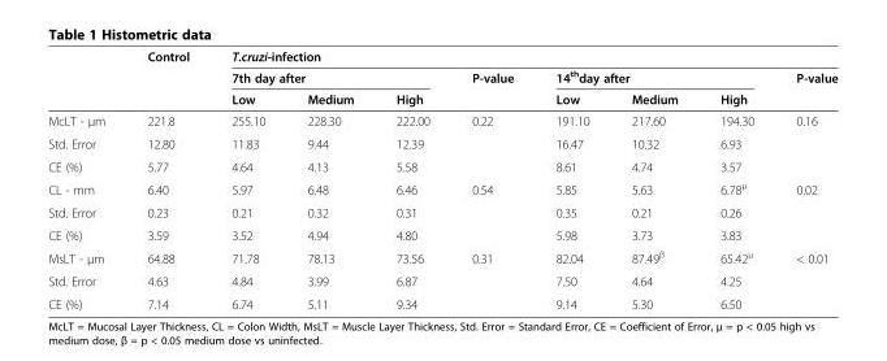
<table><thead><tr><td rowspan="3"></td><td rowspan="3">Control</td><td colspan="8">T.cruzi-infection</td></tr><tr><td colspan="3">7th day after</td><td rowspan="2">P-value</td><td colspan="3">14<sup>th</sup>day after</td><td rowspan="2">P-value</td></tr><tr><td>Low</td><td>Medium</td><td>High</td><td>Low</td><td>Medium</td><td>High</td></tr></thead><tbody><tr><td>McLT - μm</td><td>221.8</td><td>255.10</td><td>228.30</td><td>222.00</td><td>0.22</td><td>191.10</td><td>217.60</td><td>194.30</td><td>0.16</td></tr><tr><td>Std. Error</td><td>12.80</td><td>11.83</td><td>9.44</td><td>12.39</td><td></td><td>16.47</td><td>10.32</td><td>6.93</td><td></td></tr><tr><td>CE (%)</td><td>5.77</td><td>4.64</td><td>4.13</td><td>5.58</td><td></td><td>8.61</td><td>4.74</td><td>3.57</td><td></td></tr><tr><td>CL - mm</td><td>6.40</td><td>5.97</td><td>6.48</td><td>6.46</td><td>0.54</td><td>5.85</td><td>5.63</td><td>6.78<sup>μ</sup></td><td>0.02</td></tr><tr><td>Std. Error</td><td>0.23</td><td>0.21</td><td>0.32</td><td>0.31</td><td></td><td>0.35</td><td>0.21</td><td>0.26</td><td></td></tr><tr><td>CE (%)</td><td>3.59</td><td>3.52</td><td>4.94</td><td>4.80</td><td></td><td>5.98</td><td>3.73</td><td>3.83</td><td></td></tr><tr><td>MsLT - μm</td><td>64.88</td><td>71.78</td><td>78.13</td><td>73.56</td><td>0.31</td><td>82.04</td><td>87.49<sup>β</sup></td><td>65.42<sup>μ</sup></td><td>&lt; 0.01</td></tr><tr><td>Std. Error</td><td>4.63</td><td>4.84</td><td>3.99</td><td>6.87</td><td></td><td>7.50</td><td>4.64</td><td>4.25</td><td></td></tr><tr><td>CE (%)</td><td>7.14</td><td>6.74</td><td>5.11</td><td>9.34</td><td></td><td>9.14</td><td>5.30</td><td>6.50</td><td></td></tr></tbody></table>